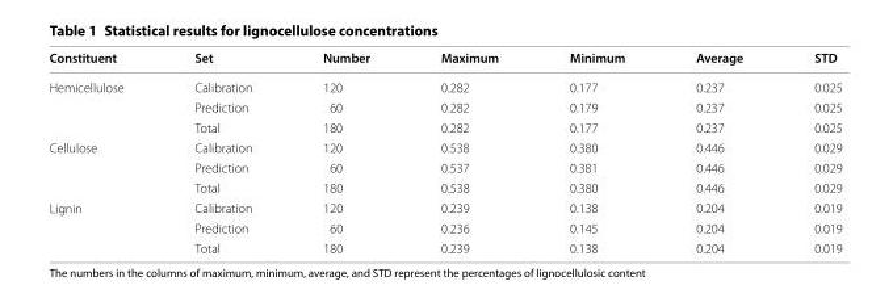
<table><thead><tr><td>Constituent</td><td>Set</td><td>Number</td><td>Maximum</td><td>Minimum</td><td>Average</td><td>STD</td></tr></thead><tbody><tr><td rowspan="3">Hemicellulose</td><td>Calibration</td><td>120</td><td>0.282</td><td>0.177</td><td>0.237</td><td>0.025</td></tr><tr><td>Prediction</td><td>60</td><td>0.282</td><td>0.179</td><td>0.237</td><td>0.025</td></tr><tr><td>Total</td><td>180</td><td>0.282</td><td>0.177</td><td>0.237</td><td>0.025</td></tr><tr><td rowspan="3">Cellulose</td><td>Calibration</td><td>120</td><td>0.538</td><td>0.380</td><td>0.446</td><td>0.029</td></tr><tr><td>Prediction</td><td>60</td><td>0.537</td><td>0.381</td><td>0.446</td><td>0.029</td></tr><tr><td>Total</td><td>180</td><td>0.538</td><td>0.380</td><td>0.446</td><td>0.029</td></tr><tr><td rowspan="3">Lignin</td><td>Calibration</td><td>120</td><td>0.239</td><td>0.138</td><td>0.204</td><td>0.019</td></tr><tr><td>Prediction</td><td>60</td><td>0.236</td><td>0.145</td><td>0.204</td><td>0.019</td></tr><tr><td>Total</td><td>180</td><td>0.239</td><td>0.138</td><td>0.204</td><td>0.019</td></tr></tbody></table>